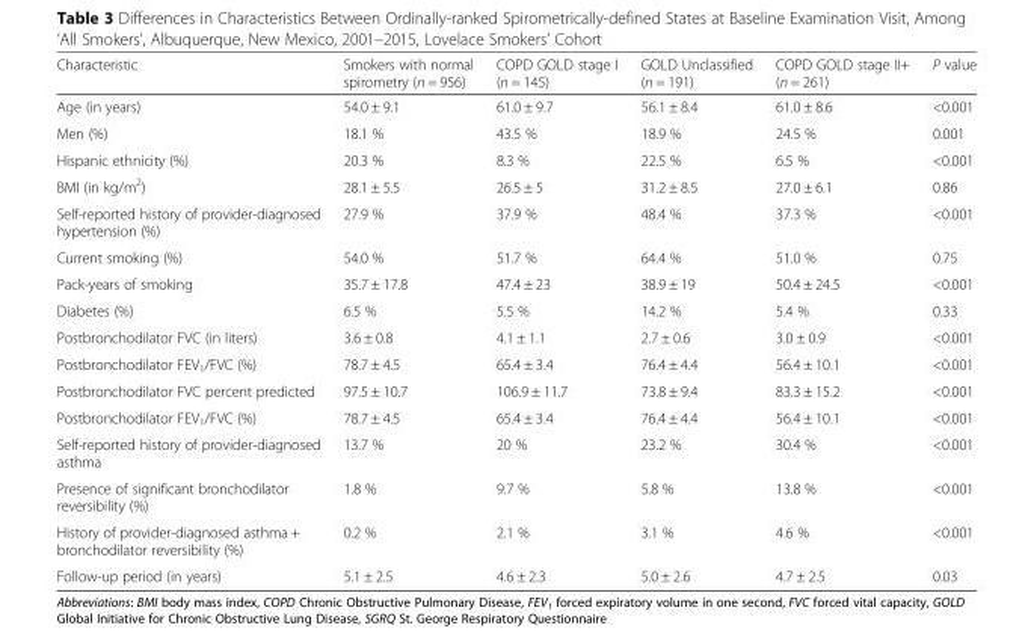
<table><thead><tr><td>Characteristic</td><td>Smokers with normal spirometry (n = 956)</td><td>COPD GOLD stage I (n = 145)</td><td>GOLD Unclassified (n = 191)</td><td>COPD GOLD stage II+ (n = 261)</td><td>P value</td></tr></thead><tbody><tr><td>Age (in years)</td><td>54.0 ± 9.1</td><td>61.0 ± 9.7</td><td>56.1 ± 8.4</td><td>61.0 ± 8.6</td><td>&lt;0.001</td></tr><tr><td>Men (%)</td><td>18.1 %</td><td>43.5 %</td><td>18.9 %</td><td>24.5 %</td><td>0.001</td></tr><tr><td>Hispanic ethnicity (%)</td><td>20.3 %</td><td>8.3 %</td><td>22.5 %</td><td>6.5 %</td><td>&lt;0.001</td></tr><tr><td>BMI (in kg/m<sup>2</sup>)</td><td>28.1 ± 5.5</td><td>26.5 ± 5</td><td>31.2 ± 8.5</td><td>27.0 ± 6.1</td><td>0.86</td></tr><tr><td>Self-reported history of provider-diagnosed hypertension (%)</td><td>27.9 %</td><td>37.9 %</td><td>48.4 %</td><td>37.3 %</td><td>&lt;0.001</td></tr><tr><td>Current smoking (%)</td><td>54.0 %</td><td>51.7 %</td><td>64.4 %</td><td>51.0 %</td><td>0.75</td></tr><tr><td>Pack-years of smoking</td><td>35.7 ± 17.8</td><td>47.4 ± 23</td><td>38.9 ± 19</td><td>50.4 ± 24.5</td><td>&lt;0.001</td></tr><tr><td>Diabetes (%)</td><td>6.5 %</td><td>5.5 %</td><td>14.2 %</td><td>5.4 %</td><td>0.33</td></tr><tr><td>Postbronchodilator FVC (in liters)</td><td>3.6 ± 0.8</td><td>4.1 ± 1.1</td><td>2.7 ± 0.6</td><td>3.0 ± 0.9</td><td>&lt;0.001</td></tr><tr><td>Postbronchodilator FEV<sub>1</sub>/FVC (%)</td><td>78.7 ± 4.5</td><td>65.4 ± 3.4</td><td>76.4 ± 4.4</td><td>56.4 ± 10.1</td><td>&lt;0.001</td></tr><tr><td>Postbronchodilator FVC percent predicted</td><td>97.5 ± 10.7</td><td>106.9 ± 11.7</td><td>73.8 ± 9.4</td><td>83.3 ± 15.2</td><td>&lt;0.001</td></tr><tr><td>Postbronchodilator FEV<sub>1</sub>/FVC (%)</td><td>78.7 ± 4.5</td><td>65.4 ± 3.4</td><td>76.4 ± 4.4</td><td>56.4 ± 10.1</td><td>&lt;0.001</td></tr><tr><td>Self-reported history of provider-diagnosed asthma</td><td>13.7 %</td><td>20 %</td><td>23.2 %</td><td>30.4 %</td><td>&lt;0.001</td></tr><tr><td>Presence of significant bronchodilator reversibility (%)</td><td>1.8 %</td><td>9.7 %</td><td>5.8 %</td><td>13.8 %</td><td>&lt;0.001</td></tr><tr><td>History of provider-diagnosed asthma + bronchodilator reversibility (%)</td><td>0.2 %</td><td>2.1 %</td><td>3.1 %</td><td>4.6 %</td><td>&lt;0.001</td></tr><tr><td>Follow-up period (in years)</td><td>5.1 ± 2.5</td><td>4.6 ± 2.3</td><td>5.0 ± 2.6</td><td>4.7 ± 2.5</td><td>0.03</td></tr></tbody></table>